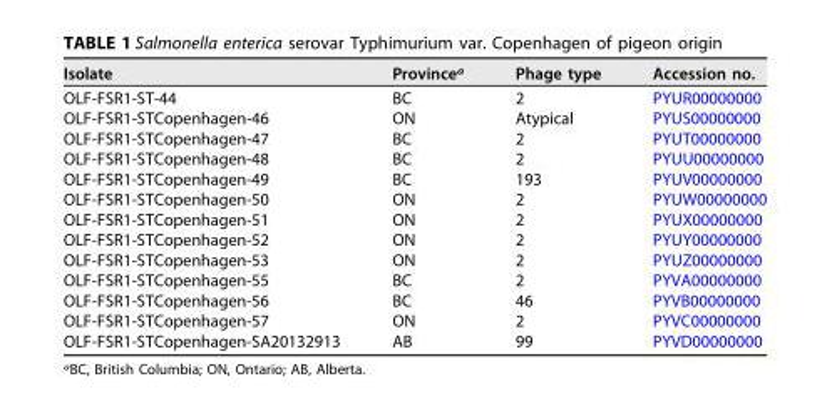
<table><thead><tr><td>Isolate</td><td>Province<sup>a</sup></td><td>Phage type</td><td>Accession no.</td></tr></thead><tbody><tr><td>OLF-FSR1-ST-44</td><td>BC</td><td>2</td><td>PYUR00000000</td></tr><tr><td>OLF-FSR1-STCopenhagen-46</td><td>ON</td><td>Atypical</td><td>PYUS00000000</td></tr><tr><td>OLF-FSR1-STCopenhagen-47</td><td>BC</td><td>2</td><td>PYUT00000000</td></tr><tr><td>OLF-FSR1-STCopenhagen-48</td><td>BC</td><td>2</td><td>PYUU00000000</td></tr><tr><td>OLF-FSR1-STCopenhagen-49</td><td>BC</td><td>193</td><td>PYUV00000000</td></tr><tr><td>OLF-FSR1-STCopenhagen-50</td><td>ON</td><td>2</td><td>PYUW00000000</td></tr><tr><td>OLF-FSR1-STCopenhagen-51</td><td>ON</td><td>2</td><td>PYUX00000000</td></tr><tr><td>OLF-FSR1-STCopenhagen-52</td><td>ON</td><td>2</td><td>PYUY00000000</td></tr><tr><td>OLF-FSR1-STCopenhagen-53</td><td>ON</td><td>2</td><td>PYUZ00000000</td></tr><tr><td>OLF-FSR1-STCopenhagen-55</td><td>BC</td><td>2</td><td>PYVA00000000</td></tr><tr><td>OLF-FSR1-STCopenhagen-56</td><td>BC</td><td>46</td><td>PYVB00000000</td></tr><tr><td>OLF-FSR1-STCopenhagen-57</td><td>ON</td><td>2</td><td>PYVC00000000</td></tr><tr><td>OLF-FSR1-STCopenhagen-SA20132913</td><td>AB</td><td>99</td><td>PYVD00000000</td></tr></tbody></table>